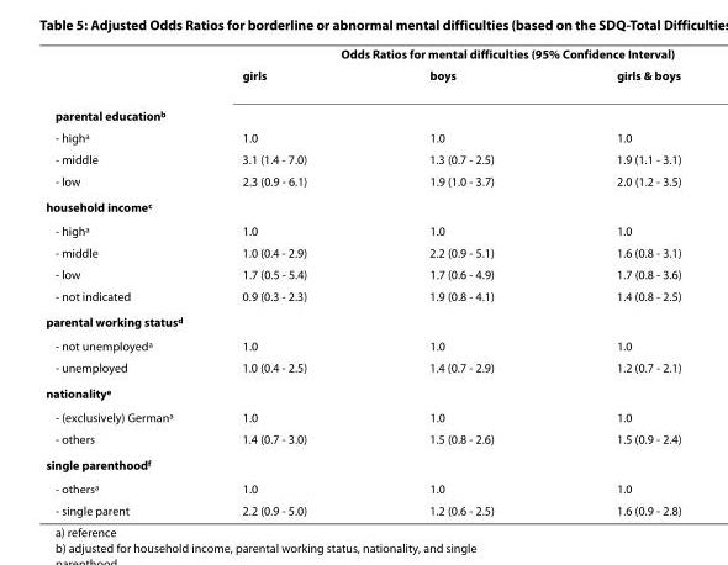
<table><thead><tr><td rowspan="2"></td><td colspan="3">Odds Ratios for mental difficulties (95% Confidence Interval)</td></tr><tr><td>girls</td><td>boys</td><td>girls &amp; boys</td></tr></thead><tbody><tr><td colspan="4">parental education<sup>b</sup></td></tr><tr><td>- high<sup>a</sup></td><td>1.0</td><td>1.0</td><td>1.0</td></tr><tr><td>- middle</td><td>3.1 (1.4 - 7.0)</td><td>1.3 (0.7 - 2.5)</td><td>1.9 (1.1 - 3.1)</td></tr><tr><td>- low</td><td>2.3 (0.9 - 6.1)</td><td>1.9 (1.0 - 3.7)</td><td>2.0 (1.2 - 3.5)</td></tr><tr><td colspan="4">household income<sup>c</sup></td></tr><tr><td>- high<sup>a</sup></td><td>1.0</td><td>1.0</td><td>1.0</td></tr><tr><td>- middle</td><td>1.0 (0.4 - 2.9)</td><td>2.2 (0.9 - 5.1)</td><td>1.6 (0.8 - 3.1)</td></tr><tr><td>- low</td><td>1.7 (0.5 - 5.4)</td><td>1.7 (0.6 - 4.9)</td><td>1.7 (0.8 - 3.6)</td></tr><tr><td>- not indicated</td><td>0.9 (0.3 - 2.3)</td><td>1.9 (0.8 - 4.1)</td><td>1.4 (0.8 - 2.5)</td></tr><tr><td colspan="4">parental working status<sup>d</sup></td></tr><tr><td>- not unemployed<sup>a</sup></td><td>1.0</td><td>1.0</td><td>1.0</td></tr><tr><td>- unemployed</td><td>1.0 (0.4 - 2.5)</td><td>1.4 (0.7 - 2.9)</td><td>1.2 (0.7 - 2.1)</td></tr><tr><td colspan="4">nationality<sup>e</sup></td></tr><tr><td>- (exclusively) German<sup>a</sup></td><td>1.0</td><td>1.0</td><td>1.0</td></tr><tr><td>- others</td><td>1.4 (0.7 - 3.0)</td><td>1.5 (0.8 - 2.6)</td><td>1.5 (0.9 - 2.4)</td></tr><tr><td colspan="4">single parenthood<sup>f</sup></td></tr><tr><td>- others<sup>a</sup></td><td>1.0</td><td>1.0</td><td>1.0</td></tr><tr><td>- single parent</td><td>2.2 (0.9 - 5.0)</td><td>1.2 (0.6 - 2.5)</td><td>1.6 (0.9 - 2.8)</td></tr></tbody></table>